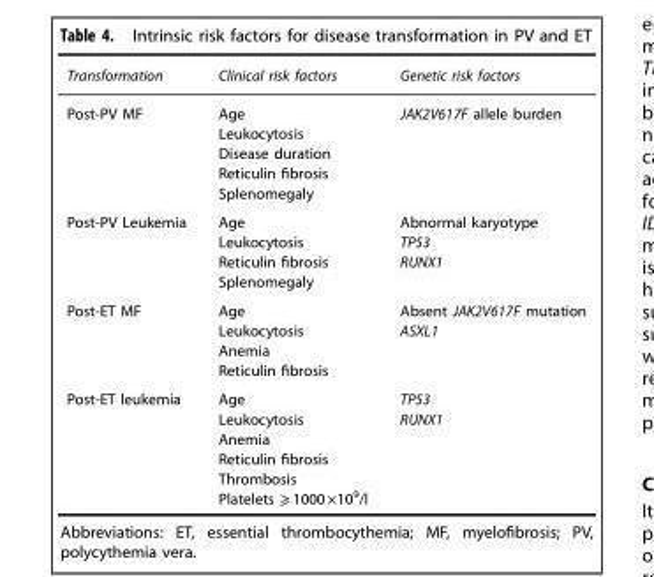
<table><thead><tr><td>Transformation</td><td>Clinical risk factors</td><td>Genetic risk factors</td></tr></thead><tbody><tr><td rowspan="5">Post-PV MF</td><td>Age</td><td>JAK2V617F allele burden</td></tr><tr><td>Leukocytosis</td><td></td></tr><tr><td>Disease duration</td><td></td></tr><tr><td>Reticulin fibrosis</td><td></td></tr><tr><td>Splenomegaly</td><td></td></tr><tr><td rowspan="4">Post-PV Leukemia</td><td>Age</td><td>Abnormal karyotype</td></tr><tr><td>Leukocytosis</td><td>TP53</td></tr><tr><td>Reticulin fibrosis</td><td>RUNX1</td></tr><tr><td>Splenomegaly</td><td></td></tr><tr><td rowspan="4">Post-ET MF</td><td>Age</td><td>Absent JAK2V617F mutation</td></tr><tr><td>Leukocytosis</td><td>ASXL1</td></tr><tr><td>Anemia</td><td></td></tr><tr><td>Reticulin fibrosis</td><td></td></tr><tr><td rowspan="6">Post-ET leukemia</td><td>Age</td><td>TP53</td></tr><tr><td>Leukocytosis</td><td>RUNX1</td></tr><tr><td>Anemia</td><td></td></tr><tr><td>Reticulin fibrosis</td><td></td></tr><tr><td>Thrombosis</td><td></td></tr><tr><td>Platelets ⩾ 1000 ×10<sup>9</sup>/l</td><td></td></tr></tbody></table>